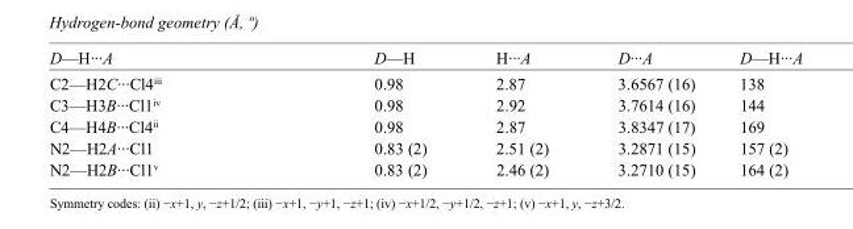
<table><tbody><tr><td>D—H···A</td><td>D—H</td><td>H···A</td><td>D···A</td><td>D—H···A</td></tr><tr><td>C2—H2C···Cl4<sup>iii</sup></td><td>0.98</td><td>2.87</td><td>3.6567 (16)</td><td>138</td></tr><tr><td>C3—H3B···Cl1<sup>iv</sup></td><td>0.98</td><td>2.92</td><td>3.7614 (16)</td><td>144</td></tr><tr><td>C4—H4B···Cl4<sup>ii</sup></td><td>0.98</td><td>2.87</td><td>3.8347 (17)</td><td>169</td></tr><tr><td>N2—H2A···Cl1</td><td>0.83 (2)</td><td>2.51 (2)</td><td>3.2871 (15)</td><td>157 (2)</td></tr><tr><td>N2—H2B···Cl1<sup>v</sup></td><td>0.83 (2)</td><td>2.46 (2)</td><td>3.2710 (15)</td><td>164 (2)</td></tr></tbody></table>